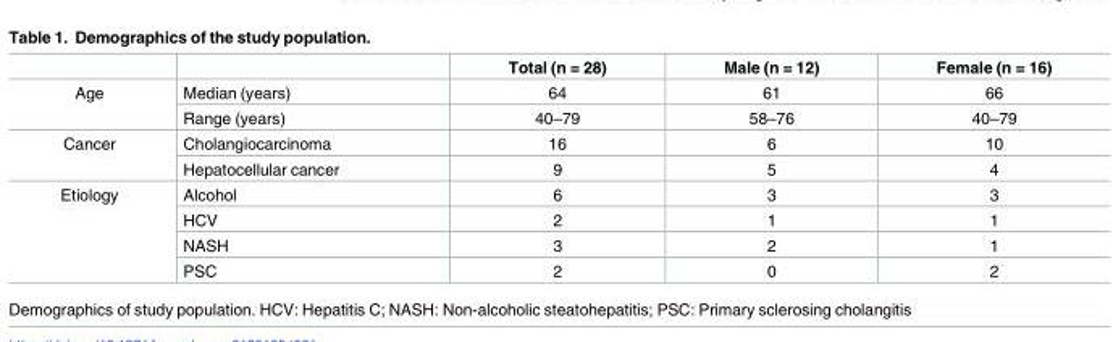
<table><thead><tr><td></td><td></td><td>Total (n = 28)</td><td>Male (n = 12)</td><td>Female (n = 16)</td></tr></thead><tbody><tr><td rowspan="2">Age</td><td>Median (years)</td><td>64</td><td>61</td><td>66</td></tr><tr><td>Range (years)</td><td>40–79</td><td>58–76</td><td>40–79</td></tr><tr><td rowspan="2">Cancer</td><td>Cholangiocarcinoma</td><td>16</td><td>6</td><td>10</td></tr><tr><td>Hepatocellular cancer</td><td>9</td><td>5</td><td>4</td></tr><tr><td rowspan="4">Etiology</td><td>Alcohol</td><td>6</td><td>3</td><td>3</td></tr><tr><td>HCV</td><td>2</td><td>1</td><td>1</td></tr><tr><td>NASH</td><td>3</td><td>2</td><td>1</td></tr><tr><td>PSC</td><td>2</td><td>0</td><td>2</td></tr></tbody></table>